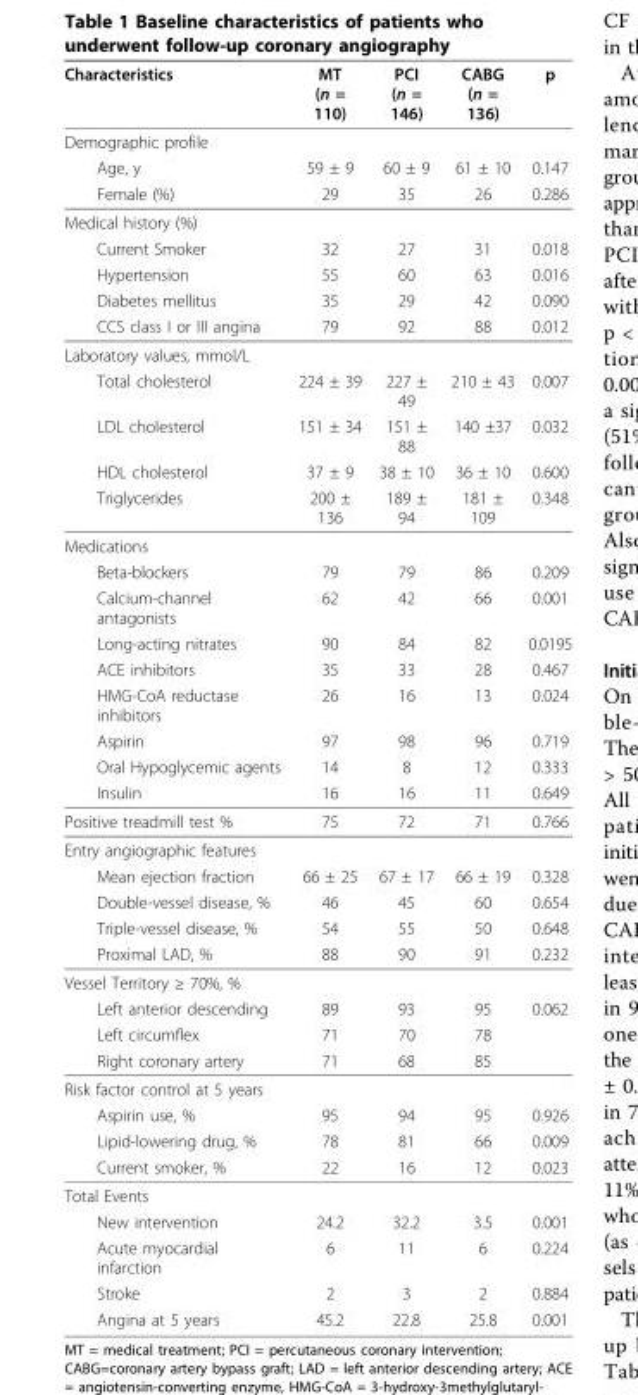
<table><thead><tr><td>Characteristics</td><td>MT (n = 110)</td><td>PCI (n = 146)</td><td>CABG (n = 136)</td><td>p</td></tr></thead><tbody><tr><td colspan="5">Demographic profile</td></tr><tr><td>Age, y</td><td>59 ± 9</td><td>60 ± 9</td><td>61 ± 10</td><td>0.147</td></tr><tr><td>Female (%)</td><td>29</td><td>35</td><td>26</td><td>0.286</td></tr><tr><td colspan="5">Medical history (%)</td></tr><tr><td>Current Smoker</td><td>32</td><td>27</td><td>31</td><td>0.018</td></tr><tr><td>Hypertension</td><td>55</td><td>60</td><td>63</td><td>0.016</td></tr><tr><td>Diabetes mellitus</td><td>35</td><td>29</td><td>42</td><td>0.090</td></tr><tr><td>CCS class I or III angina</td><td>79</td><td>92</td><td>88</td><td>0.012</td></tr><tr><td colspan="5">Laboratory values, mmol/L</td></tr><tr><td>Total cholesterol</td><td>224 ± 39</td><td>227 ± 49</td><td>210 ± 43</td><td>0.007</td></tr><tr><td>LDL cholesterol</td><td>151 ± 34</td><td>151 ± 88</td><td>140 ±37</td><td>0.032</td></tr><tr><td>HDL cholesterol</td><td>37 ± 9</td><td>38 ± 10</td><td>36 ± 10</td><td>0.600</td></tr><tr><td>Triglycerides</td><td>200 ± 136</td><td>189 ± 94</td><td>181 ± 109</td><td>0.348</td></tr><tr><td colspan="5">Medications</td></tr><tr><td>Beta-blockers</td><td>79</td><td>79</td><td>86</td><td>0.209</td></tr><tr><td>Calcium-channel antagonists</td><td>62</td><td>42</td><td>66</td><td>0.001</td></tr><tr><td>Long-acting nitrates</td><td>90</td><td>84</td><td>82</td><td>0.0195</td></tr><tr><td>ACE inhibitors</td><td>35</td><td>33</td><td>28</td><td>0.467</td></tr><tr><td>HMG-CoA reductase inhibitors</td><td>26</td><td>16</td><td>13</td><td>0.024</td></tr><tr><td>Aspirin</td><td>97</td><td>98</td><td>96</td><td>0.719</td></tr><tr><td>Oral Hypoglycemic agents</td><td>14</td><td>8</td><td>12</td><td>0.333</td></tr><tr><td>Insulin</td><td>16</td><td>16</td><td>11</td><td>0.649</td></tr><tr><td>Positive treadmill test %</td><td>75</td><td>72</td><td>71</td><td>0.766</td></tr><tr><td colspan="5">Entry angiographic features</td></tr><tr><td>Mean ejection fraction</td><td>66 ± 25</td><td>67 ± 17</td><td>66 ± 19</td><td>0.328</td></tr><tr><td>Double-vessel disease, %</td><td>46</td><td>45</td><td>60</td><td>0.654</td></tr><tr><td>Triple-vessel disease, %</td><td>54</td><td>55</td><td>50</td><td>0.648</td></tr><tr><td>Proximal LAD, %</td><td>88</td><td>90</td><td>91</td><td>0.232</td></tr><tr><td colspan="5">Vessel Territory ≥ 70%, %</td></tr><tr><td>Left anterior descending</td><td>89</td><td>93</td><td>95</td><td>0.062</td></tr><tr><td>Left circumflex</td><td>71</td><td>70</td><td>78</td><td></td></tr><tr><td>Right coronary artery</td><td>71</td><td>68</td><td>85</td><td></td></tr><tr><td colspan="5">Risk factor control at 5 years</td></tr><tr><td>Aspirin use, %</td><td>95</td><td>94</td><td>95</td><td>0.926</td></tr><tr><td>Lipid-lowering drug, %</td><td>78</td><td>81</td><td>66</td><td>0.009</td></tr><tr><td>Current smoker, %</td><td>22</td><td>16</td><td>12</td><td>0.023</td></tr><tr><td colspan="5">Total Events</td></tr><tr><td>New intervention</td><td>24.2</td><td>32.2</td><td>3.5</td><td>0.001</td></tr><tr><td>Acute myocardial infarction</td><td>6</td><td>11</td><td>6</td><td>0.224</td></tr><tr><td>Stroke</td><td>2</td><td>3</td><td>2</td><td>0.884</td></tr><tr><td>Angina at 5 years</td><td>45.2</td><td>22.8</td><td>25.8</td><td>0.001</td></tr></tbody></table>